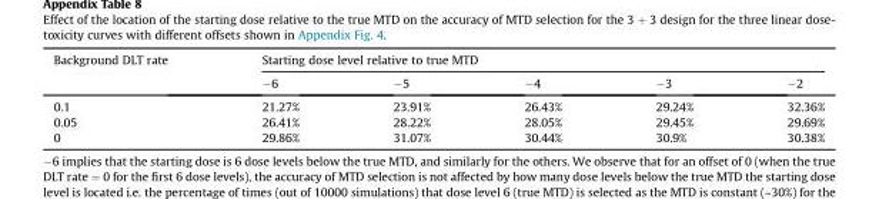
<table><thead><tr><td rowspan="2">Background DLT rate</td><td colspan="5">Starting dose level relative to true MTD</td></tr><tr><td>−6</td><td>−5</td><td>−4</td><td>−3</td><td>−2</td></tr></thead><tbody><tr><td>0.1</td><td>21.27%</td><td>23.91%</td><td>26.43%</td><td>29.24%</td><td>32.36%</td></tr><tr><td>0.05</td><td>26.41%</td><td>28.22%</td><td>28.05%</td><td>29.45%</td><td>29.69%</td></tr><tr><td>0</td><td>29.86%</td><td>31.07%</td><td>30.44%</td><td>30.9%</td><td>30.38%</td></tr></tbody></table>